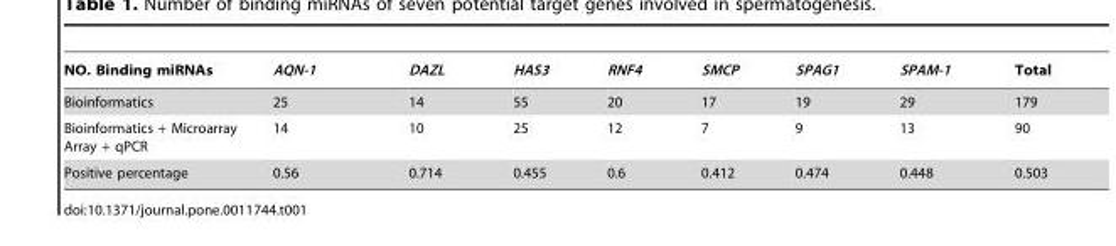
<table><thead><tr><td>NO. Binding miRNAs</td><td>AQN-1</td><td>DAZL</td><td>HAS3</td><td>RNF4</td><td>SMCP</td><td>SPAG1</td><td>SPAM-1</td><td>Total</td></tr></thead><tbody><tr><td>Bioinformatics</td><td>25</td><td>14</td><td>55</td><td>20</td><td>17</td><td>19</td><td>29</td><td>179</td></tr><tr><td>Bioinformatics + Microarray Array + qPCR</td><td>14</td><td>10</td><td>25</td><td>12</td><td>7</td><td>9</td><td>13</td><td>90</td></tr><tr><td>Positive percentage</td><td>0.56</td><td>0.714</td><td>0.455</td><td>0.6</td><td>0.412</td><td>0.474</td><td>0.448</td><td>0.503</td></tr></tbody></table>